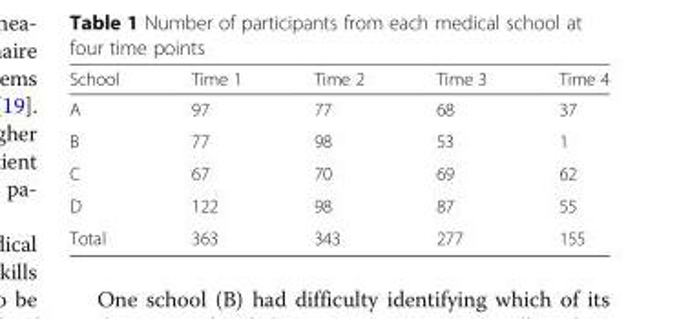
<table><thead><tr><td>School</td><td>Time 1</td><td>Time 2</td><td>Time 3</td><td>Time 4</td></tr></thead><tbody><tr><td>A</td><td>97</td><td>77</td><td>68</td><td>37</td></tr><tr><td>B</td><td>77</td><td>98</td><td>53</td><td>1</td></tr><tr><td>C</td><td>67</td><td>70</td><td>69</td><td>62</td></tr><tr><td>D</td><td>122</td><td>98</td><td>87</td><td>55</td></tr><tr><td>Total</td><td>363</td><td>343</td><td>277</td><td>155</td></tr></tbody></table>